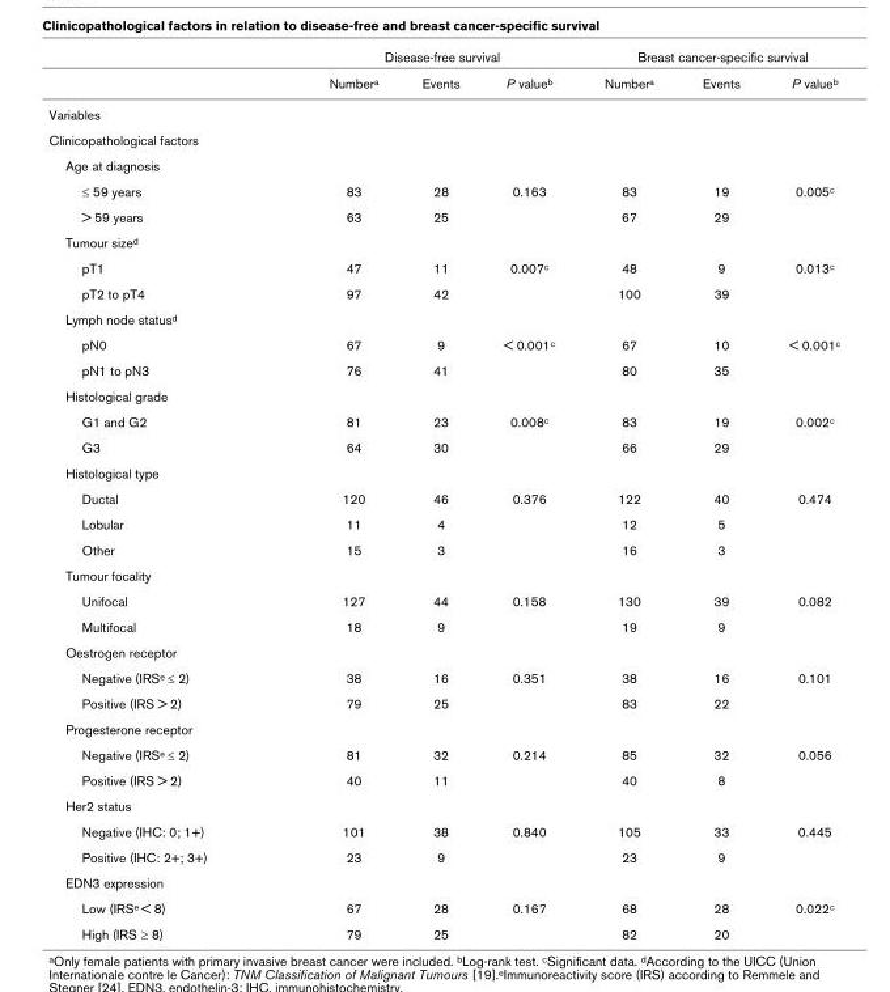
<table><thead><tr><td rowspan="2"></td><td colspan="3">Disease-free survival</td><td colspan="3">Breast cancer-specific survival</td></tr><tr><td>Number<sup>a</sup></td><td>Events</td><td>P value<sup>b</sup></td><td>Number<sup>a</sup></td><td>Events</td><td>P value<sup>b</sup></td></tr></thead><tbody><tr><td colspan="7">Variables</td></tr><tr><td colspan="7">Clinicopathological factors</td></tr><tr><td colspan="7">Age at diagnosis</td></tr><tr><td>≤ 59 years</td><td>83</td><td>28</td><td>0.163</td><td>83</td><td>19</td><td>0.005<sup>c</sup></td></tr><tr><td>&gt; 59 years</td><td>63</td><td>25</td><td></td><td>67</td><td>29</td><td></td></tr><tr><td colspan="7">Tumour size<sup>d</sup></td></tr><tr><td>pT1</td><td>47</td><td>11</td><td>0.007<sup>c</sup></td><td>48</td><td>9</td><td>0.013<sup>c</sup></td></tr><tr><td>pT2 to pT4</td><td>97</td><td>42</td><td></td><td>100</td><td>39</td><td></td></tr><tr><td colspan="7">Lymph node status<sup>d</sup></td></tr><tr><td>pN0</td><td>67</td><td>9</td><td>&lt; 0.001<sup>c</sup></td><td>67</td><td>10</td><td>&lt; 0.001<sup>c</sup></td></tr><tr><td>pN1 to pN3</td><td>76</td><td>41</td><td></td><td>80</td><td>35</td><td></td></tr><tr><td colspan="7">Histological grade</td></tr><tr><td>G1 and G2</td><td>81</td><td>23</td><td>0.008<sup>c</sup></td><td>83</td><td>19</td><td>0.002<sup>c</sup></td></tr><tr><td>G3</td><td>64</td><td>30</td><td></td><td>66</td><td>29</td><td></td></tr><tr><td colspan="7">Histological type</td></tr><tr><td>Ductal</td><td>120</td><td>46</td><td>0.376</td><td>122</td><td>40</td><td>0.474</td></tr><tr><td>Lobular</td><td>11</td><td>4</td><td></td><td>12</td><td>5</td><td></td></tr><tr><td>Other</td><td>15</td><td>3</td><td></td><td>16</td><td>3</td><td></td></tr><tr><td colspan="7">Tumour focality</td></tr><tr><td>Unifocal</td><td>127</td><td>44</td><td>0.158</td><td>130</td><td>39</td><td>0.082</td></tr><tr><td>Multifocal</td><td>18</td><td>9</td><td></td><td>19</td><td>9</td><td></td></tr><tr><td colspan="7">Oestrogen receptor</td></tr><tr><td>Negative (IRS<sup>e</sup> ≤ 2)</td><td>38</td><td>16</td><td>0.351</td><td>38</td><td>16</td><td>0.101</td></tr><tr><td>Positive (IRS &gt; 2)</td><td>79</td><td>25</td><td></td><td>83</td><td>22</td><td></td></tr><tr><td colspan="7">Progesterone receptor</td></tr><tr><td>Negative (IRS<sup>e</sup> ≤ 2)</td><td>81</td><td>32</td><td>0.214</td><td>85</td><td>32</td><td>0.056</td></tr><tr><td>Positive (IRS &gt; 2)</td><td>40</td><td>11</td><td></td><td>40</td><td>8</td><td></td></tr><tr><td colspan="7">Her2 status</td></tr><tr><td>Negative (IHC: 0; 1+)</td><td>101</td><td>38</td><td>0.840</td><td>105</td><td>33</td><td>0.445</td></tr><tr><td>Positive (IHC: 2+; 3+)</td><td>23</td><td>9</td><td></td><td>23</td><td>9</td><td></td></tr><tr><td colspan="7">EDN3 expression</td></tr><tr><td>Low (IRS<sup>e</sup> &lt; 8)</td><td>67</td><td>28</td><td>0.167</td><td>68</td><td>28</td><td>0.022<sup>c</sup></td></tr><tr><td>High (IRS ≥ 8)</td><td>79</td><td>25</td><td></td><td>82</td><td>20</td><td></td></tr></tbody></table>